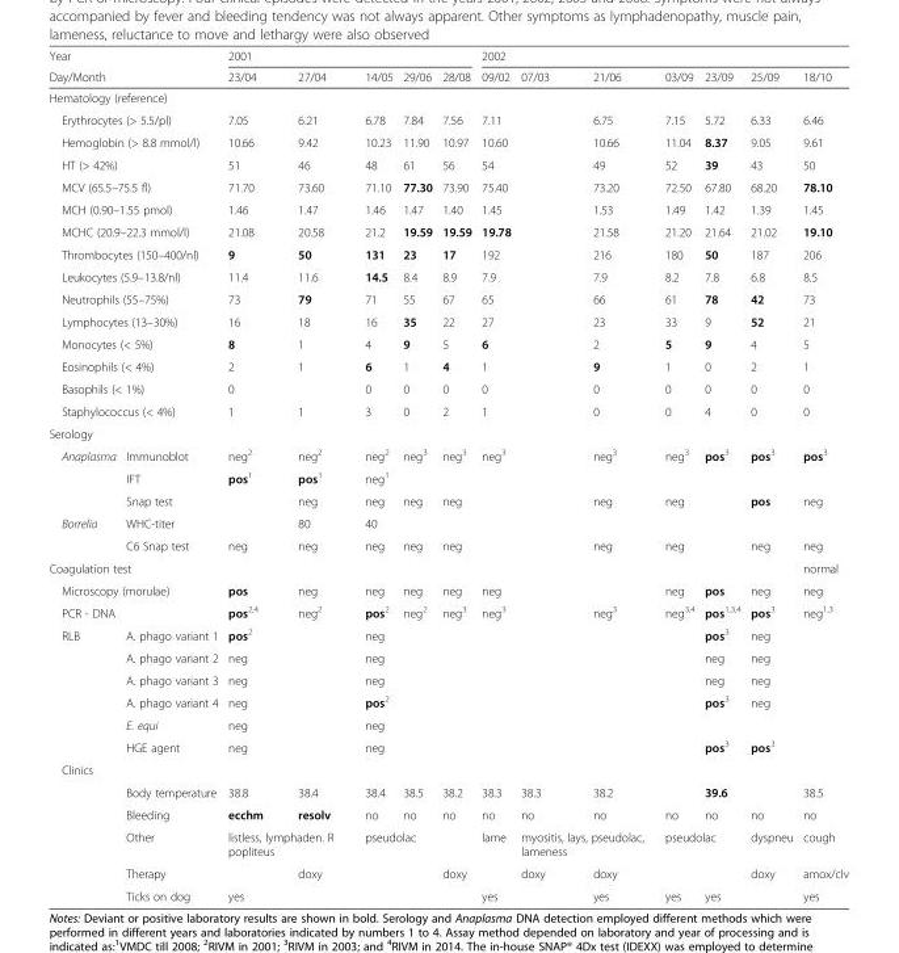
<table><thead><tr><td rowspan="2" colspan="2">Year Day/Month</td><td colspan="5">2001</td><td colspan="7">2002</td></tr><tr><td>23/04</td><td>27/04</td><td>14/05</td><td>29/06</td><td>28/08</td><td>09/02</td><td>07/03</td><td>21/06</td><td>03/09</td><td>23/09</td><td>25/09</td><td>18/10</td></tr></thead><tbody><tr><td colspan="14">Hematology (reference)</td></tr><tr><td colspan="2">Erythrocytes (&gt; 5.5/pl)</td><td>7.05</td><td>6.21</td><td>6.78</td><td>7.84</td><td>7.56</td><td>7.11</td><td></td><td>6.75</td><td>7.15</td><td>5.72</td><td>6.33</td><td>6.46</td></tr><tr><td colspan="2">Hemoglobin (&gt; 8.8 mmol/l)</td><td>10.66</td><td>9.42</td><td>10.23</td><td>11.90</td><td>10.97</td><td>10.60</td><td></td><td>10.66</td><td>11.04</td><td>8.37</td><td>9.05</td><td>9.61</td></tr><tr><td colspan="2">HT (&gt; 42%)</td><td>51</td><td>46</td><td>48</td><td>61</td><td>56</td><td>54</td><td></td><td>49</td><td>52</td><td>39</td><td>43</td><td>50</td></tr><tr><td colspan="2">MCV (65.5–75.5 fl)</td><td>71.70</td><td>73.60</td><td>71.10</td><td>77.30</td><td>73.90</td><td>75.40</td><td></td><td>73.20</td><td>72.50</td><td>67.80</td><td>68.20</td><td>78.10</td></tr><tr><td colspan="2">MCH (0.90–1.55 pmol)</td><td>1.46</td><td>1.47</td><td>1.46</td><td>1.47</td><td>1.40</td><td>1.45</td><td></td><td>1.53</td><td>1.49</td><td>1.42</td><td>1.39</td><td>1.45</td></tr><tr><td colspan="2">MCHC (20.9–22.3 mmol/l)</td><td>21.08</td><td>20.58</td><td>21.2</td><td>19.59</td><td>19.59</td><td>19.78</td><td></td><td>21.58</td><td>21.20</td><td>21.64</td><td>21.02</td><td>19.10</td></tr><tr><td colspan="2">Thrombocytes (150–400/nl)</td><td>9</td><td>50</td><td>131</td><td>23</td><td>17</td><td>192</td><td></td><td>216</td><td>180</td><td>50</td><td>187</td><td>206</td></tr><tr><td colspan="2">Leukocytes (5.9–13.8/nl)</td><td>11.4</td><td>11.6</td><td>14.5</td><td>8.4</td><td>8.9</td><td>7.9</td><td></td><td>7.9</td><td>8.2</td><td>7.8</td><td>6.8</td><td>8.5</td></tr><tr><td colspan="2">Neutrophils (55–75%)</td><td>73</td><td>79</td><td>71</td><td>55</td><td>67</td><td>65</td><td></td><td>66</td><td>61</td><td>78</td><td>42</td><td>73</td></tr><tr><td colspan="2">Lymphocytes (13–30%)</td><td>16</td><td>18</td><td>16</td><td>35</td><td>22</td><td>27</td><td></td><td>23</td><td>33</td><td>9</td><td>52</td><td>21</td></tr><tr><td colspan="2">Monocytes (&lt; 5%)</td><td>8</td><td>1</td><td>4</td><td>9</td><td>5</td><td>6</td><td></td><td>2</td><td>5</td><td>9</td><td>4</td><td>5</td></tr><tr><td colspan="2">Eosinophils (&lt; 4%)</td><td>2</td><td>1</td><td>6</td><td>1</td><td>4</td><td>1</td><td></td><td>9</td><td>1</td><td>0</td><td>2</td><td>1</td></tr><tr><td colspan="2">Basophils (&lt; 1%)</td><td>0</td><td></td><td>0</td><td>0</td><td>0</td><td>0</td><td></td><td>0</td><td>0</td><td>0</td><td>0</td><td>0</td></tr><tr><td colspan="2">Staphylococcus (&lt; 4%)</td><td>1</td><td>1</td><td>3</td><td>0</td><td>2</td><td>1</td><td></td><td>0</td><td>0</td><td>4</td><td>0</td><td>0</td></tr><tr><td colspan="14">Serology</td></tr><tr><td rowspan="3">Anaplasma</td><td>Immunoblot</td><td>neg<sup>2</sup></td><td>neg<sup>2</sup></td><td>neg<sup>2</sup></td><td>neg<sup>3</sup></td><td>neg<sup>3</sup></td><td>neg<sup>3</sup></td><td></td><td>neg<sup>3</sup></td><td>neg<sup>3</sup></td><td>pos<sup>3</sup></td><td>pos<sup>3</sup></td><td>pos<sup>3</sup></td></tr><tr><td>IFT</td><td>pos<sup>1</sup></td><td>pos<sup>1</sup></td><td>neg<sup>1</sup></td><td></td><td></td><td></td><td></td><td></td><td></td><td></td><td></td><td></td></tr><tr><td>Snap test</td><td></td><td>neg</td><td>neg</td><td>neg</td><td>neg</td><td></td><td></td><td>neg</td><td>neg</td><td></td><td>pos</td><td>neg</td></tr><tr><td rowspan="2">Borrelia</td><td>WHC-titer</td><td></td><td>80</td><td>40</td><td></td><td></td><td></td><td></td><td></td><td></td><td></td><td></td><td></td></tr><tr><td>C6 Snap test</td><td>neg</td><td>neg</td><td>neg</td><td>neg</td><td>neg</td><td></td><td></td><td>neg</td><td>neg</td><td></td><td>neg</td><td>neg</td></tr><tr><td colspan="2">Coagulation test</td><td></td><td></td><td></td><td></td><td></td><td></td><td></td><td></td><td></td><td></td><td></td><td>normal</td></tr><tr><td colspan="2">Microscopy (morulae)</td><td>pos</td><td>neg</td><td>neg</td><td>neg</td><td>neg</td><td>neg</td><td></td><td></td><td>neg</td><td>pos</td><td>neg</td><td>neg</td></tr><tr><td colspan="2">PCR - DNA</td><td>pos<sup>2,4</sup></td><td>neg<sup>2</sup></td><td>pos<sup>2</sup></td><td>neg<sup>2</sup></td><td>neg<sup>3</sup></td><td>neg<sup>3</sup></td><td></td><td>neg<sup>3</sup></td><td>neg<sup>3,4</sup></td><td>pos<sup>1,3,4</sup></td><td>pos<sup>3</sup></td><td>neg<sup>1,3</sup></td></tr><tr><td rowspan="6">RLB</td><td>A. phago variant 1</td><td>pos<sup>2</sup></td><td></td><td>neg</td><td></td><td></td><td></td><td></td><td></td><td></td><td>pos<sup>3</sup></td><td>neg</td><td></td></tr><tr><td>A. phago variant 2</td><td>neg</td><td></td><td>neg</td><td></td><td></td><td></td><td></td><td></td><td></td><td>neg</td><td>neg</td><td></td></tr><tr><td>A. phago variant 3</td><td>neg</td><td></td><td>neg</td><td></td><td></td><td></td><td></td><td></td><td></td><td>neg</td><td>neg</td><td></td></tr><tr><td>A. phago variant 4</td><td>neg</td><td></td><td>pos<sup>2</sup></td><td></td><td></td><td></td><td></td><td></td><td></td><td>pos<sup>3</sup></td><td>neg</td><td></td></tr><tr><td>E. equi</td><td>neg</td><td></td><td>neg</td><td></td><td></td><td></td><td></td><td></td><td></td><td></td><td></td><td></td></tr><tr><td>HGE agent</td><td>neg</td><td></td><td>neg</td><td></td><td></td><td></td><td></td><td></td><td></td><td>pos<sup>3</sup></td><td>pos<sup>3</sup></td><td></td></tr><tr><td colspan="14">Clinics</td></tr><tr><td rowspan="5"></td><td>Body temperature</td><td>38.8</td><td>38.4</td><td>38.4</td><td>38.5</td><td>38.2</td><td>38.3</td><td>38.3</td><td>38.2</td><td></td><td>39.6</td><td></td><td>38.5</td></tr><tr><td>Bleeding</td><td>ecchm</td><td>resolv</td><td>no</td><td>no</td><td>no</td><td>no</td><td>no</td><td>no</td><td>no</td><td>no</td><td>no</td><td>no</td></tr><tr><td>Other</td><td colspan="2">listless, lymphaden. R popliteus</td><td colspan="2">pseudolac</td><td></td><td>lame</td><td colspan="2">myositis, lays, pseudolac, lameness</td><td colspan="2">pseudolac</td><td>dyspneu</td><td>cough</td></tr><tr><td>Therapy</td><td></td><td>doxy</td><td></td><td></td><td>doxy</td><td></td><td>doxy</td><td>doxy</td><td></td><td></td><td>doxy</td><td>amox/clv</td></tr><tr><td>Ticks on dog</td><td>yes</td><td></td><td></td><td></td><td></td><td>yes</td><td></td><td>yes</td><td>yes</td><td>yes</td><td></td><td>yes</td></tr></tbody></table>